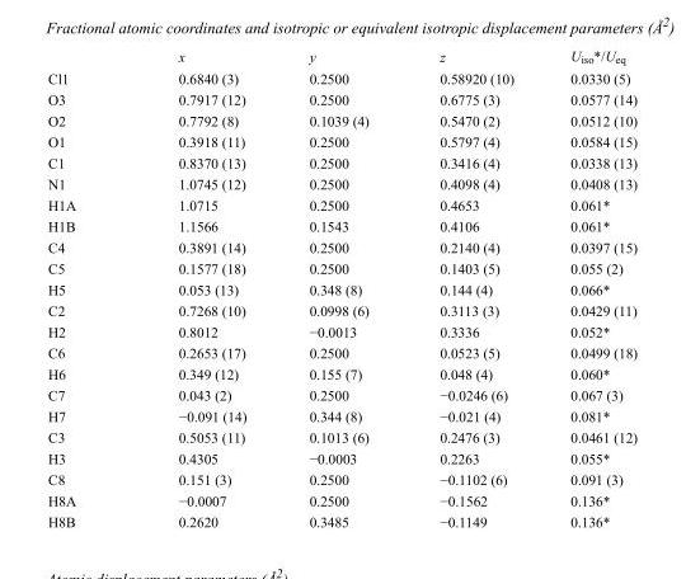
<table><thead><tr><td></td><td>x</td><td>y</td><td>z</td><td>U<sub>iso</sub>*/U<sub>eq</sub></td></tr></thead><tbody><tr><td>Cl1</td><td>0.6840 (3)</td><td>0.2500</td><td>0.58920 (10)</td><td>0.0330 (5)</td></tr><tr><td>O3</td><td>0.7917 (12)</td><td>0.2500</td><td>0.6775 (3)</td><td>0.0577 (14)</td></tr><tr><td>O2</td><td>0.7792 (8)</td><td>0.1039 (4)</td><td>0.5470 (2)</td><td>0.0512 (10)</td></tr><tr><td>O1</td><td>0.3918 (11)</td><td>0.2500</td><td>0.5797 (4)</td><td>0.0584 (15)</td></tr><tr><td>C1</td><td>0.8370 (13)</td><td>0.2500</td><td>0.3416 (4)</td><td>0.0338 (13)</td></tr><tr><td>N1</td><td>1.0745 (12)</td><td>0.2500</td><td>0.4098 (4)</td><td>0.0408 (13)</td></tr><tr><td>H1A</td><td>1.0715</td><td>0.2500</td><td>0.4653</td><td>0.061*</td></tr><tr><td>H1B</td><td>1.1566</td><td>0.1543</td><td>0.4106</td><td>0.061*</td></tr><tr><td>C4</td><td>0.3891 (14)</td><td>0.2500</td><td>0.2140 (4)</td><td>0.0397 (15)</td></tr><tr><td>C5</td><td>0.1577 (18)</td><td>0.2500</td><td>0.1403 (5)</td><td>0.055 (2)</td></tr><tr><td>H5</td><td>0.053 (13)</td><td>0.348 (8)</td><td>0.144 (4)</td><td>0.066*</td></tr><tr><td>C2</td><td>0.7268 (10)</td><td>0.0998 (6)</td><td>0.3113 (3)</td><td>0.0429 (11)</td></tr><tr><td>H2</td><td>0.8012</td><td>−0.0013</td><td>0.3336</td><td>0.052*</td></tr><tr><td>C6</td><td>0.2653 (17)</td><td>0.2500</td><td>0.0523 (5)</td><td>0.0499 (18)</td></tr><tr><td>H6</td><td>0.349 (12)</td><td>0.155 (7)</td><td>0.048 (4)</td><td>0.060*</td></tr><tr><td>C7</td><td>0.043 (2)</td><td>0.2500</td><td>−0.0246 (6)</td><td>0.067 (3)</td></tr><tr><td>H7</td><td>−0.091 (14)</td><td>0.344 (8)</td><td>−0.021 (4)</td><td>0.081*</td></tr><tr><td>C3</td><td>0.5053 (11)</td><td>0.1013 (6)</td><td>0.2476 (3)</td><td>0.0461 (12)</td></tr><tr><td>H3</td><td>0.4305</td><td>−0.0003</td><td>0.2263</td><td>0.055*</td></tr><tr><td>C8</td><td>0.151 (3)</td><td>0.2500</td><td>−0.1102 (6)</td><td>0.091 (3)</td></tr><tr><td>H8A</td><td>−0.0007</td><td>0.2500</td><td>−0.1562</td><td>0.136*</td></tr><tr><td>H8B</td><td>0.2620</td><td>0.3485</td><td>−0.1149</td><td>0.136*</td></tr></tbody></table>